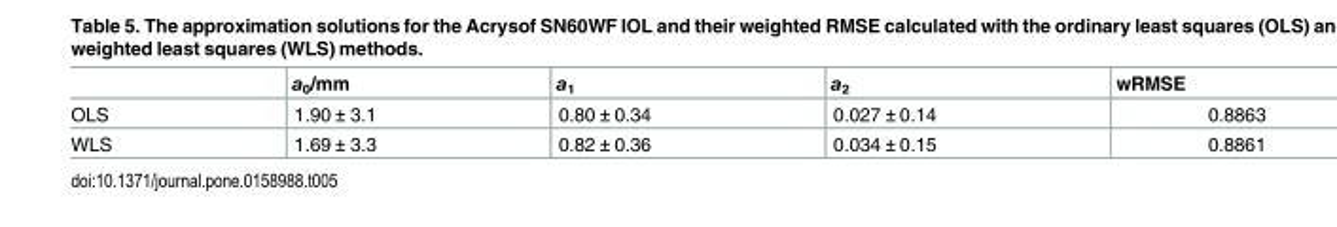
<table><thead><tr><td></td><td>a<sub>0</sub>/mm</td><td>a<sub>1</sub></td><td>a<sub>2</sub></td><td>wRMSE</td></tr></thead><tbody><tr><td>OLS</td><td>1.90 ± 3.1</td><td>0.80 ± 0.34</td><td>0.027 ± 0.14</td><td>0.8863</td></tr><tr><td>WLS</td><td>1.69 ± 3.3</td><td>0.82 ± 0.36</td><td>0.034 ± 0.15</td><td>0.8861</td></tr></tbody></table>